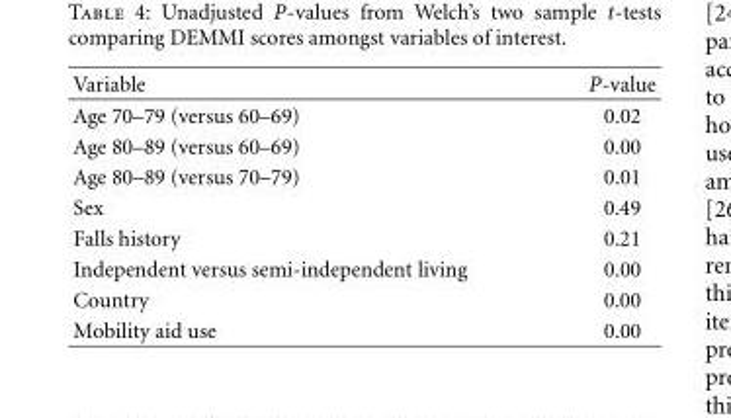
<table><thead><tr><td>Variable</td><td>P-value</td></tr></thead><tbody><tr><td>Age 70–79 (versus 60–69)</td><td>0.02</td></tr><tr><td>Age 80–89 (versus 60–69)</td><td>0.00</td></tr><tr><td>Age 80–89 (versus 70–79)</td><td>0.01</td></tr><tr><td>Sex</td><td>0.49</td></tr><tr><td>Falls history</td><td>0.21</td></tr><tr><td>Independent versus semi-independent living</td><td>0.00</td></tr><tr><td>Country</td><td>0.00</td></tr><tr><td>Mobility aid use</td><td>0.00</td></tr></tbody></table>